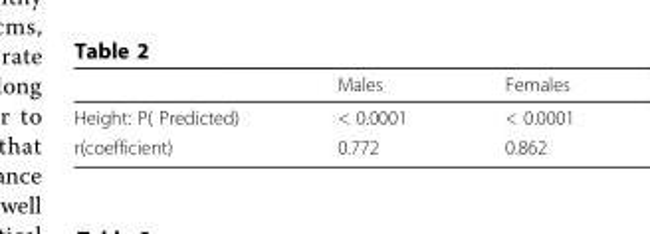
<table><thead><tr><td></td><td>Males</td><td>Females</td></tr></thead><tbody><tr><td>Height: P( Predicted)</td><td>&lt; 0.0001</td><td>&lt; 0.0001</td></tr><tr><td>r(coefficient)</td><td>0.772</td><td>0.862</td></tr></tbody></table>